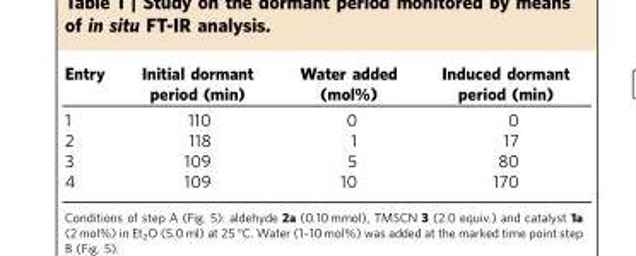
<table><thead><tr><td>Entry</td><td>Initial dormant period (min)</td><td>Water added (mol%)</td><td>Induced dormant period (min)</td></tr></thead><tbody><tr><td>1</td><td>110</td><td>0</td><td>0</td></tr><tr><td>2</td><td>118</td><td>1</td><td>17</td></tr><tr><td>3</td><td>109</td><td>5</td><td>80</td></tr><tr><td>4</td><td>109</td><td>10</td><td>170</td></tr></tbody></table>